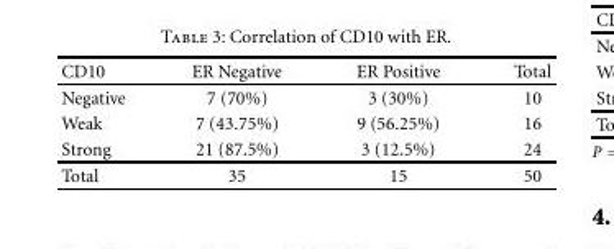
<table><thead><tr><td>CD10</td><td>ER Negative</td><td>ER Positive</td><td>Total</td></tr></thead><tbody><tr><td>Negative</td><td>7 (70%)</td><td>3 (30%)</td><td>10</td></tr><tr><td>Weak</td><td>7 (43.75%)</td><td>9 (56.25%)</td><td>16</td></tr><tr><td>Strong</td><td>21 (87.5%)</td><td>3 (12.5%)</td><td>24</td></tr><tr><td>Total</td><td>35</td><td>15</td><td>50</td></tr></tbody></table>